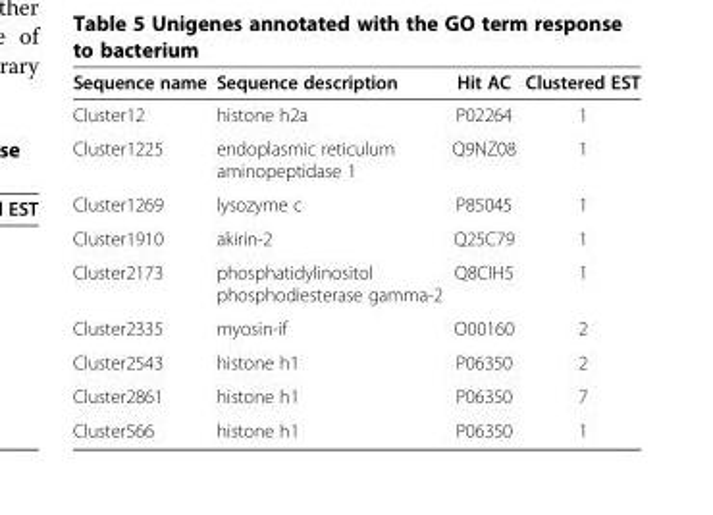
<table><thead><tr><td>Sequence name</td><td>Sequence description</td><td>Hit AC</td><td>Clustered EST</td></tr></thead><tbody><tr><td>Cluster12</td><td>histone h2a</td><td>P02264</td><td>1</td></tr><tr><td>Cluster1225</td><td>endoplasmic reticulum aminopeptidase 1</td><td>Q9NZ08</td><td>1</td></tr><tr><td>Cluster1269</td><td>lysozyme c</td><td>P85045</td><td>1</td></tr><tr><td>Cluster1910</td><td>akirin-2</td><td>Q25C79</td><td>1</td></tr><tr><td>Cluster2173</td><td>phosphatidylinositol phosphodiesterase gamma-2</td><td>Q8CIH5</td><td>1</td></tr><tr><td>Cluster2335</td><td>myosin-if</td><td>O00160</td><td>2</td></tr><tr><td>Cluster2543</td><td>histone h1</td><td>P06350</td><td>2</td></tr><tr><td>Cluster2861</td><td>histone h1</td><td>P06350</td><td>7</td></tr><tr><td>Cluster566</td><td>histone h1</td><td>P06350</td><td>1</td></tr></tbody></table>